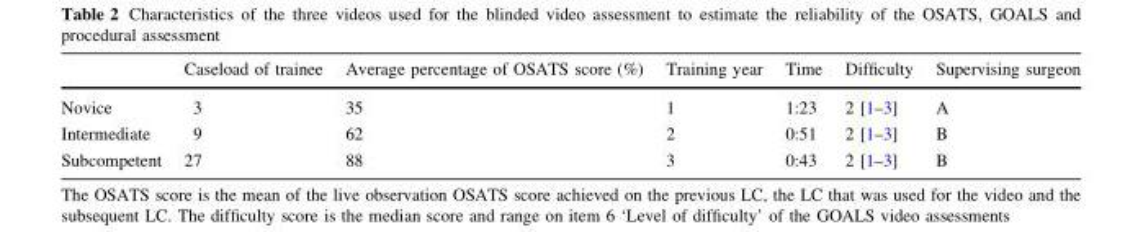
<table><thead><tr><td></td><td>Caseload of trainee</td><td>Average percentage of OSATS score (%)</td><td>Training year</td><td>Time</td><td>Difficulty</td><td>Supervising surgeon</td></tr></thead><tbody><tr><td>Novice</td><td>3</td><td>35</td><td>1</td><td>1:23</td><td>2 [1–3]</td><td>A</td></tr><tr><td>Intermediate</td><td>9</td><td>62</td><td>2</td><td>0:51</td><td>2 [1–3]</td><td>B</td></tr><tr><td>Subcompetent</td><td>27</td><td>88</td><td>3</td><td>0:43</td><td>2 [1–3]</td><td>B</td></tr></tbody></table>